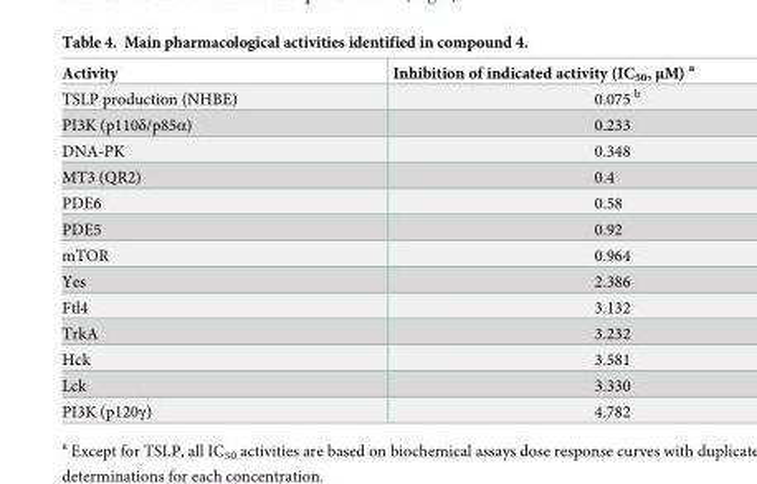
<table><thead><tr><td>Activity</td><td>Inhibition of indicated activity (IC<sub>50</sub>, μM) <sup>a</sup></td></tr></thead><tbody><tr><td>TSLP production (NHBE)</td><td>0.075 <sup>b</sup></td></tr><tr><td>PI3K (p110δ/p85α)</td><td>0.233</td></tr><tr><td>DNA-PK</td><td>0.348</td></tr><tr><td>MT3 (QR2)</td><td>0.4</td></tr><tr><td>PDE6</td><td>0.58</td></tr><tr><td>PDE5</td><td>0.92</td></tr><tr><td>mTOR</td><td>0.964</td></tr><tr><td>Yes</td><td>2.386</td></tr><tr><td>Ftl4</td><td>3.132</td></tr><tr><td>TrkA</td><td>3.232</td></tr><tr><td>Hck</td><td>3.581</td></tr><tr><td>Lck</td><td>3.330</td></tr><tr><td>PI3K (p120γ)</td><td>4.782</td></tr></tbody></table>